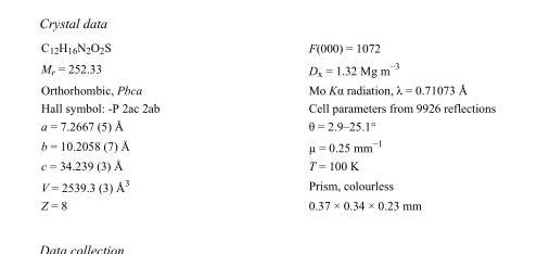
<table><tbody><tr><td>C<sub>12</sub>H<sub>16</sub>N<sub>2</sub>O<sub>2</sub>S</td><td>F(000) = 1072</td></tr><tr><td>M<sub>r</sub> = 252.33</td><td>D<sub>x</sub> = 1.32 Mg m<sup>−3</sup></td></tr><tr><td>Orthorhombic, Pbca</td><td>Mo Kα radiation, λ = 0.71073 Å</td></tr><tr><td>Hall symbol: -P 2ac 2ab</td><td>Cell parameters from 9926 reflections</td></tr><tr><td>a = 7.2667 (5) Å</td><td>θ = 2.9–25.1°</td></tr><tr><td>b = 10.2058 (7) Å</td><td>µ = 0.25 mm<sup>−1</sup></td></tr><tr><td>c = 34.239 (3) Å</td><td>T = 100 K</td></tr><tr><td>V = 2539.3 (3) Å<sup>3</sup></td><td>Prism, colourless</td></tr><tr><td>Z = 8</td><td>0.37 × 0.34 × 0.23 mm</td></tr></tbody></table>